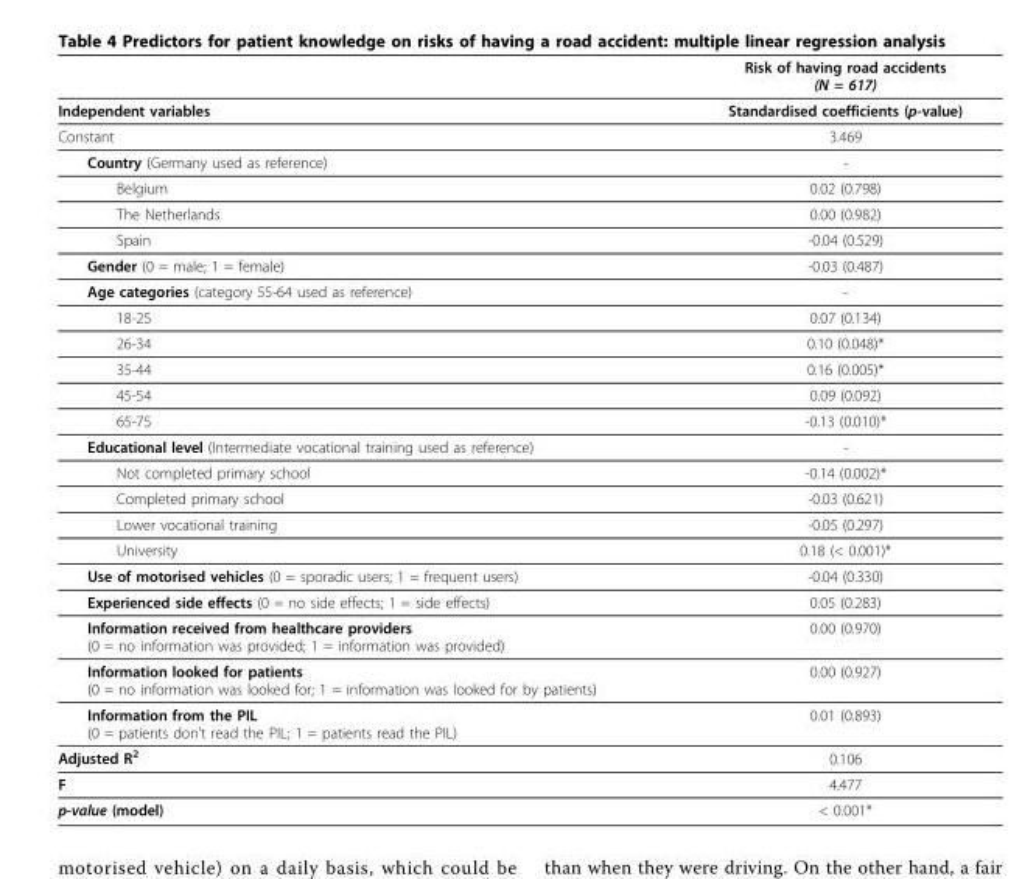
<table><thead><tr><td></td><td>Risk of having road accidents (N = 617)</td></tr></thead><tbody><tr><td>Independent variables</td><td>Standardised coefficients (p-value)</td></tr><tr><td>Constant</td><td>3.469</td></tr><tr><td>Country (Germany used as reference)</td><td>-</td></tr><tr><td>Belgium</td><td>0.02 (0.798)</td></tr><tr><td>The Netherlands</td><td>0.00 (0.982)</td></tr><tr><td>Spain</td><td>-0.04 (0.529)</td></tr><tr><td>Gender (0 = male; 1 = female)</td><td>-0.03 (0.487)</td></tr><tr><td>Age categories (category 55-64 used as reference)</td><td>-</td></tr><tr><td>18-25</td><td>0.07 (0.134)</td></tr><tr><td>26-34</td><td>0.10 (0.048)*</td></tr><tr><td>35-44</td><td>0.16 (0.005)*</td></tr><tr><td>45-54</td><td>0.09 (0.092)</td></tr><tr><td>65-75</td><td>-0.13 (0.010)*</td></tr><tr><td>Educational level (Intermediate vocational training used as reference)</td><td>-</td></tr><tr><td>Not completed primary school</td><td>-0.14 (0.002)*</td></tr><tr><td>Completed primary school</td><td>-0.03 (0.621)</td></tr><tr><td>Lower vocational training</td><td>-0.05 (0.297)</td></tr><tr><td>University</td><td>0.18 (&lt; 0.001)*</td></tr><tr><td>Use of motorised vehicles (0 = sporadic users; 1 = frequent users)</td><td>-0.04 (0.330)</td></tr><tr><td>Experienced side effects (0 = no side effects; 1 = side effects)</td><td>0.05 (0.283)</td></tr><tr><td>Information received from healthcare providers (0 = no information was provided; 1 = information was provided)</td><td>0.00 (0.970)</td></tr><tr><td>Information looked for patients (0 = no information was looked for; 1 = information was looked for by patients)</td><td>0.00 (0.927)</td></tr><tr><td>Information from the PIL (0 = patients don’t read the PIL; 1 = patients read the PIL)</td><td>0.01 (0.893)</td></tr><tr><td>Adjusted R2</td><td>0.106</td></tr><tr><td>F</td><td>4.477</td></tr><tr><td>p-value (model)</td><td>&lt; 0.001*</td></tr></tbody></table>